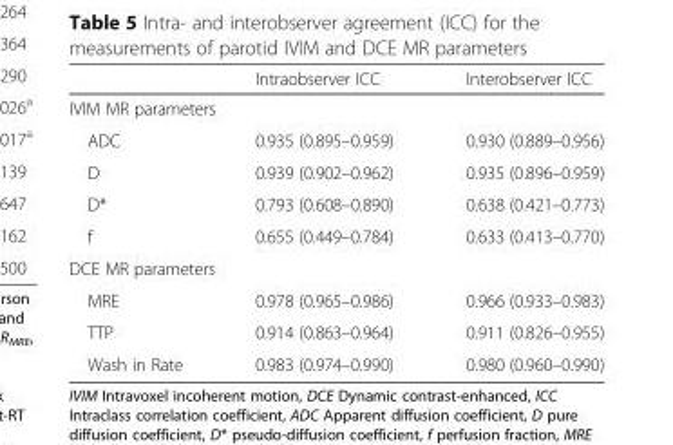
<table><thead><tr><td></td><td>Intraobserver ICC</td><td>Interobserver ICC</td></tr></thead><tbody><tr><td colspan="3">IVIM MR parameters</td></tr><tr><td>ADC</td><td>0.935 (0.895–0.959)</td><td>0.930 (0.889–0.956)</td></tr><tr><td>D</td><td>0.939 (0.902–0.962)</td><td>0.935 (0.896–0.959)</td></tr><tr><td>D*</td><td>0.793 (0.608–0.890)</td><td>0.638 (0.421–0.773)</td></tr><tr><td>f</td><td>0.655 (0.449–0.784)</td><td>0.633 (0.413–0.770)</td></tr><tr><td colspan="3">DCE MR parameters</td></tr><tr><td>MRE</td><td>0.978 (0.965–0.986)</td><td>0.966 (0.933–0.983)</td></tr><tr><td>TTP</td><td>0.914 (0.863–0.964)</td><td>0.911 (0.826–0.955)</td></tr><tr><td>Wash in Rate</td><td>0.983 (0.974–0.990)</td><td>0.980 (0.960–0.990)</td></tr></tbody></table>